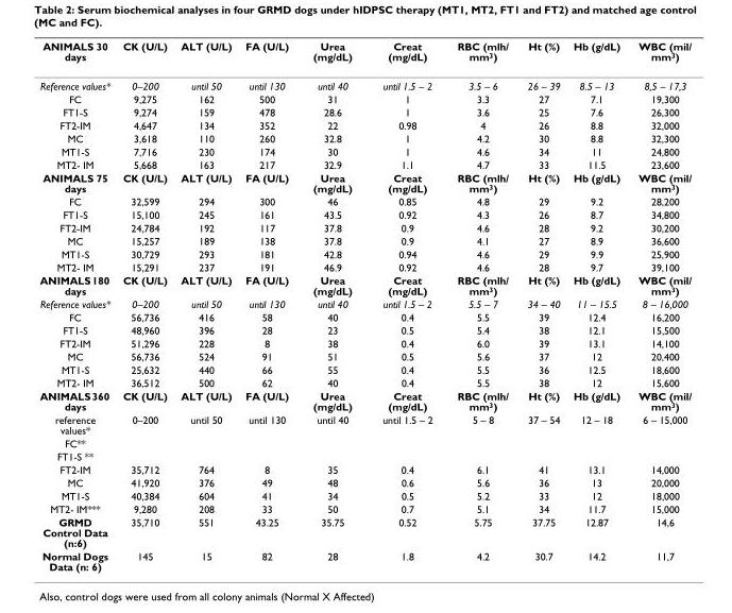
<table><thead><tr><td>ANIMALS 30 days</td><td>CK (U/L)</td><td>ALT (U/L)</td><td>FA (U/L)</td><td>Urea (mg/dL)</td><td>Creat (mg/dL)</td><td>RBC (mlh/ mm<sup>3</sup>)</td><td>Ht (%)</td><td>Hb (g/dL)</td><td>WBC (mil/ mm<sup>3</sup>)</td></tr></thead><tbody><tr><td>Reference values*</td><td>0–200</td><td>until 50</td><td>until 130</td><td>until 40</td><td>until 1.5 – 2</td><td>3.5 – 6</td><td>26 – 39</td><td>8.5 – 13</td><td>8,5 – 17,3</td></tr><tr><td>FC</td><td>9,275</td><td>162</td><td>500</td><td>31</td><td>1</td><td>3.3</td><td>27</td><td>7.1</td><td>19,300</td></tr><tr><td>FT1-S</td><td>9,274</td><td>159</td><td>478</td><td>28.6</td><td>1</td><td>3.6</td><td>25</td><td>7.6</td><td>26,300</td></tr><tr><td>FT2-IM</td><td>4,647</td><td>134</td><td>352</td><td>22</td><td>0.98</td><td>4</td><td>26</td><td>8.8</td><td>32,000</td></tr><tr><td>MC</td><td>3,618</td><td>110</td><td>260</td><td>32.8</td><td>1</td><td>4.2</td><td>30</td><td>8.8</td><td>32,300</td></tr><tr><td>MT1-S</td><td>7,716</td><td>230</td><td>174</td><td>30</td><td>1</td><td>4.6</td><td>34</td><td>11</td><td>24,800</td></tr><tr><td>MT2- IM</td><td>5,668</td><td>163</td><td>217</td><td>32.9</td><td>1.1</td><td>4.7</td><td>33</td><td>11.5</td><td>23,600</td></tr><tr><td>ANIMALS 75 days</td><td>CK (U/L)</td><td>ALT (U/L)</td><td>FA (U/L)</td><td>Urea (mg/dL)</td><td>Creat (mg/dL)</td><td>RBC (mlh/ mm<sup>3</sup>)</td><td>Ht (%)</td><td>Hb (g/dL)</td><td>WBC (mil/ mm<sup>3</sup>)</td></tr><tr><td>FC</td><td>32,599</td><td>294</td><td>300</td><td>46</td><td>0.85</td><td>4.8</td><td>29</td><td>9.2</td><td>28,200</td></tr><tr><td>FT1-S</td><td>15,100</td><td>245</td><td>161</td><td>43.5</td><td>0.92</td><td>4.3</td><td>26</td><td>8.7</td><td>34,800</td></tr><tr><td>FT2-IM</td><td>24,784</td><td>192</td><td>117</td><td>37.8</td><td>0.9</td><td>4.6</td><td>28</td><td>9.2</td><td>30,200</td></tr><tr><td>MC</td><td>15,257</td><td>189</td><td>138</td><td>37.8</td><td>0.9</td><td>4.1</td><td>27</td><td>8.9</td><td>36,600</td></tr><tr><td>MT1-S</td><td>30,729</td><td>293</td><td>181</td><td>42.8</td><td>0.94</td><td>4.6</td><td>29</td><td>9.9</td><td>25,900</td></tr><tr><td>MT2- IM</td><td>15,291</td><td>237</td><td>191</td><td>46.9</td><td>0.92</td><td>4.6</td><td>28</td><td>9.7</td><td>39,100</td></tr><tr><td>ANIMALS 180 days</td><td>CK (U/L)</td><td>ALT (U/L)</td><td>FA (U/L)</td><td>Urea (mg/dL)</td><td>Creat (mg/dL)</td><td>RBC (mlh/ mm<sup>3</sup>)</td><td>Ht (%)</td><td>Hb (g/dL)</td><td>WBC (mil/ mm<sup>3</sup>)</td></tr><tr><td>Reference values*</td><td>0–200</td><td>until 50</td><td>until 130</td><td>until 40</td><td>until 1.5 – 2</td><td>5.5 – 7</td><td>34 – 40</td><td>11 – 15.5</td><td>8 – 16,000</td></tr><tr><td>FC</td><td>56,736</td><td>416</td><td>58</td><td>40</td><td>0.4</td><td>5.5</td><td>39</td><td>12.4</td><td>16,200</td></tr><tr><td>FT1-S</td><td>48,960</td><td>396</td><td>28</td><td>23</td><td>0.5</td><td>5.4</td><td>38</td><td>12.1</td><td>15,500</td></tr><tr><td>FT2-IM</td><td>51,296</td><td>228</td><td>8</td><td>38</td><td>0.4</td><td>6.0</td><td>39</td><td>13.1</td><td>14,100</td></tr><tr><td>MC</td><td>56,736</td><td>524</td><td>91</td><td>51</td><td>0.5</td><td>5.6</td><td>37</td><td>12</td><td>20,400</td></tr><tr><td>MT1-S</td><td>25,632</td><td>440</td><td>66</td><td>55</td><td>0.4</td><td>5.5</td><td>36</td><td>12.5</td><td>18,600</td></tr><tr><td>MT2- IM</td><td>36,512</td><td>500</td><td>62</td><td>40</td><td>0.4</td><td>5.5</td><td>38</td><td>12</td><td>15,600</td></tr><tr><td>ANIMALS 360 days</td><td>CK (U/L)</td><td>ALT (U/L)</td><td>FA (U/L)</td><td>Urea (mg/dL)</td><td>Creat (mg/dL)</td><td>RBC (mlh/ mm<sup>3</sup>)</td><td>Ht (%)</td><td>Hb (g/dL)</td><td>WBC (mil/ mm<sup>3</sup>)</td></tr><tr><td>reference values*</td><td>0–200</td><td>until 50</td><td>until 130</td><td>until 40</td><td>until 1.5 – 2</td><td>5 – 8</td><td>37 – 54</td><td>12 – 18</td><td>6 – 15,000</td></tr><tr><td colspan="10">FC**</td></tr><tr><td colspan="10">FT1-S **</td></tr><tr><td>FT2-IM</td><td>35,712</td><td>764</td><td>8</td><td>35</td><td>0.4</td><td>6.1</td><td>41</td><td>13.1</td><td>14,000</td></tr><tr><td>MC</td><td>41,920</td><td>376</td><td>49</td><td>48</td><td>0.6</td><td>5.6</td><td>36</td><td>13</td><td>20,000</td></tr><tr><td>MT1-S</td><td>40,384</td><td>604</td><td>41</td><td>34</td><td>0.5</td><td>5.2</td><td>33</td><td>12</td><td>18,000</td></tr><tr><td>MT2- IM***</td><td>9,280</td><td>208</td><td>33</td><td>50</td><td>0.7</td><td>5.1</td><td>34</td><td>11.7</td><td>15,000</td></tr><tr><td>GRMD Control Data (n:6)</td><td>35,710</td><td>551</td><td>43.25</td><td>35.75</td><td>0.52</td><td>5.75</td><td>37.75</td><td>12.87</td><td>14,6</td></tr><tr><td>Normal Dogs Data (n: 6)</td><td>145</td><td>15</td><td>82</td><td>28</td><td>1.8</td><td>4.2</td><td>30.7</td><td>14.2</td><td>11,7</td></tr></tbody></table>